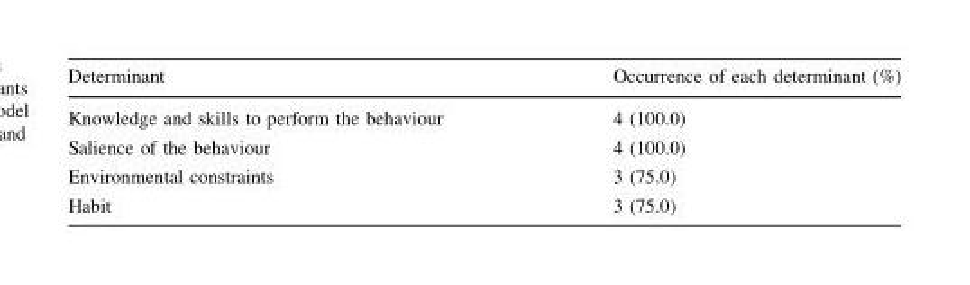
<table><thead><tr><td>Determinant</td><td>Occurrence of each determinant (%)</td></tr></thead><tbody><tr><td>Knowledge and skills to perform the behaviour</td><td>4 (100.0)</td></tr><tr><td>Salience of the behaviour</td><td>4 (100.0)</td></tr><tr><td>Environmental constraints</td><td>3 (75.0)</td></tr><tr><td>Habit</td><td>3 (75.0)</td></tr></tbody></table>